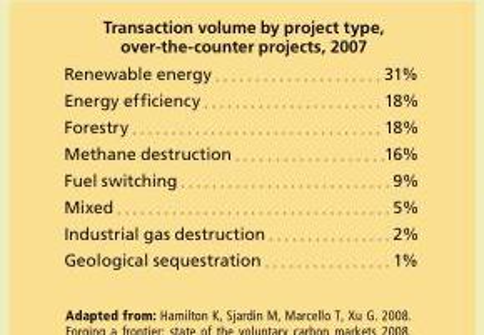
<table><tbody><tr><td>Renewable energy</td><td>31%</td></tr><tr><td>Energy efficiency</td><td>18%</td></tr><tr><td>Forestry</td><td>18%</td></tr><tr><td>Methane destruction</td><td>16%</td></tr><tr><td>Fuel switching</td><td>9%</td></tr><tr><td>Mixed</td><td>5%</td></tr><tr><td>Industrial gas destruction</td><td>2%</td></tr><tr><td>Geological sequestration</td><td>1%</td></tr></tbody></table>